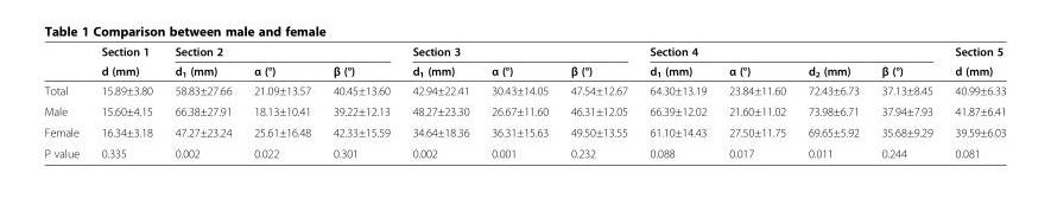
<table><thead><tr><td rowspan="2"></td><td rowspan="2">Section 1 d (mm)</td><td colspan="3">Section 2</td><td colspan="3">Section 3</td><td colspan="4">Section 4</td><td rowspan="2">Section 5 d (mm)</td></tr><tr><td>d<sub>1</sub> (mm)</td><td>α (°)</td><td>β (°)</td><td>d<sub>1</sub> (mm)</td><td>α (°)</td><td>β (°)</td><td>d<sub>1</sub> (mm)</td><td>α (°)</td><td>d<sub>2</sub> (mm)</td><td>β (°)</td></tr></thead><tbody><tr><td>Total</td><td>15.89±3.80</td><td>58.83±27.66</td><td>21.09±13.57</td><td>40.45±13.60</td><td>42.94±22.41</td><td>30.43±14.05</td><td>47.54±12.67</td><td>64.30±13.19</td><td>23.84±11.60</td><td>72.43±6.73</td><td>37.13±8.45</td><td>40.99±6.33</td></tr><tr><td>Male</td><td>15.60±4.15</td><td>66.38±27.91</td><td>18.13±10.41</td><td>39.22±12.13</td><td>48.27±23.30</td><td>26.67±11.60</td><td>46.31±12.05</td><td>66.39±12.02</td><td>21.60±11.02</td><td>73.98±6.71</td><td>37.94±7.93</td><td>41.87±6.41</td></tr><tr><td>Female</td><td>16.34±3.18</td><td>47.27±23.24</td><td>25.61±16.48</td><td>42.33±15.59</td><td>34.64±18.36</td><td>36.31±15.63</td><td>49.50±13.55</td><td>61.10±14.43</td><td>27.50±11.75</td><td>69.65±5.92</td><td>35.68±9.29</td><td>39.59±6.03</td></tr><tr><td>P value</td><td>0.335</td><td>0.002</td><td>0.022</td><td>0.301</td><td>0.002</td><td>0.001</td><td>0.232</td><td>0.088</td><td>0.017</td><td>0.011</td><td>0.244</td><td>0.081</td></tr></tbody></table>